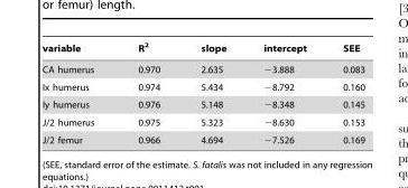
<table><thead><tr><td>variable</td><td>R<sup>2</sup></td><td>slope</td><td>intercept</td><td>SEE</td></tr></thead><tbody><tr><td>CA humerus</td><td>0.970</td><td>2.635</td><td>−3.888</td><td>0.083</td></tr><tr><td>Ix humerus</td><td>0.974</td><td>5.434</td><td>−8.792</td><td>0.160</td></tr><tr><td>Iy humerus</td><td>0.976</td><td>5.148</td><td>−8.348</td><td>0.145</td></tr><tr><td>J/2 humerus</td><td>0.975</td><td>5.323</td><td>−8.630</td><td>0.153</td></tr><tr><td>J/2 femur</td><td>0.966</td><td>4.694</td><td>−7.526</td><td>0.169</td></tr></tbody></table>